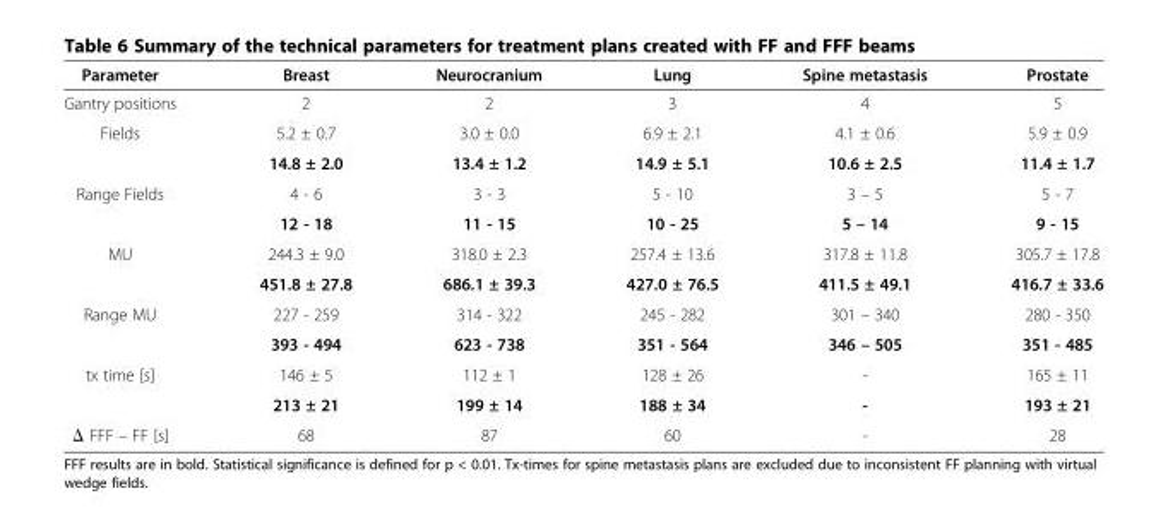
<table><thead><tr><td>Parameter</td><td>Breast</td><td>Neurocranium</td><td>Lung</td><td>Spine metastasis</td><td>Prostate</td></tr></thead><tbody><tr><td>Gantry positions</td><td>2</td><td>2</td><td>3</td><td>4</td><td>5</td></tr><tr><td rowspan="2">Fields</td><td>5.2 ± 0.7</td><td>3.0 ± 0.0</td><td>6.9 ± 2.1</td><td>4.1 ± 0.6</td><td>5.9 ± 0.9</td></tr><tr><td>14.8 ± 2.0</td><td>13.4 ± 1.2</td><td>14.9 ± 5.1</td><td>10.6 ± 2.5</td><td>11.4 ± 1.7</td></tr><tr><td rowspan="2">Range Fields</td><td>4 - 6</td><td>3 - 3</td><td>5 - 10</td><td>3 – 5</td><td>5 - 7</td></tr><tr><td>12 - 18</td><td>11 - 15</td><td>10 - 25</td><td>5 – 14</td><td>9 - 15</td></tr><tr><td rowspan="2">MU</td><td>244.3 ± 9.0</td><td>318.0 ± 2.3</td><td>257.4 ± 13.6</td><td>317.8 ± 11.8</td><td>305.7 ± 17.8</td></tr><tr><td>451.8 ± 27.8</td><td>686.1 ± 39.3</td><td>427.0 ± 76.5</td><td>411.5 ± 49.1</td><td>416.7 ± 33.6</td></tr><tr><td rowspan="2">Range MU</td><td>227 - 259</td><td>314 - 322</td><td>245 - 282</td><td>301 – 340</td><td>280 - 350</td></tr><tr><td>393 - 494</td><td>623 - 738</td><td>351 - 564</td><td>346 – 505</td><td>351 - 485</td></tr><tr><td rowspan="2">tx time [s]</td><td>146 ± 5</td><td>112 ± 1</td><td>128 ± 26</td><td>-</td><td>165 ± 11</td></tr><tr><td>213 ± 21</td><td>199 ± 14</td><td>188 ± 34</td><td>-</td><td>193 ± 21</td></tr><tr><td>Δ FFF – FF [s]</td><td>68</td><td>87</td><td>60</td><td>-</td><td>28</td></tr></tbody></table>